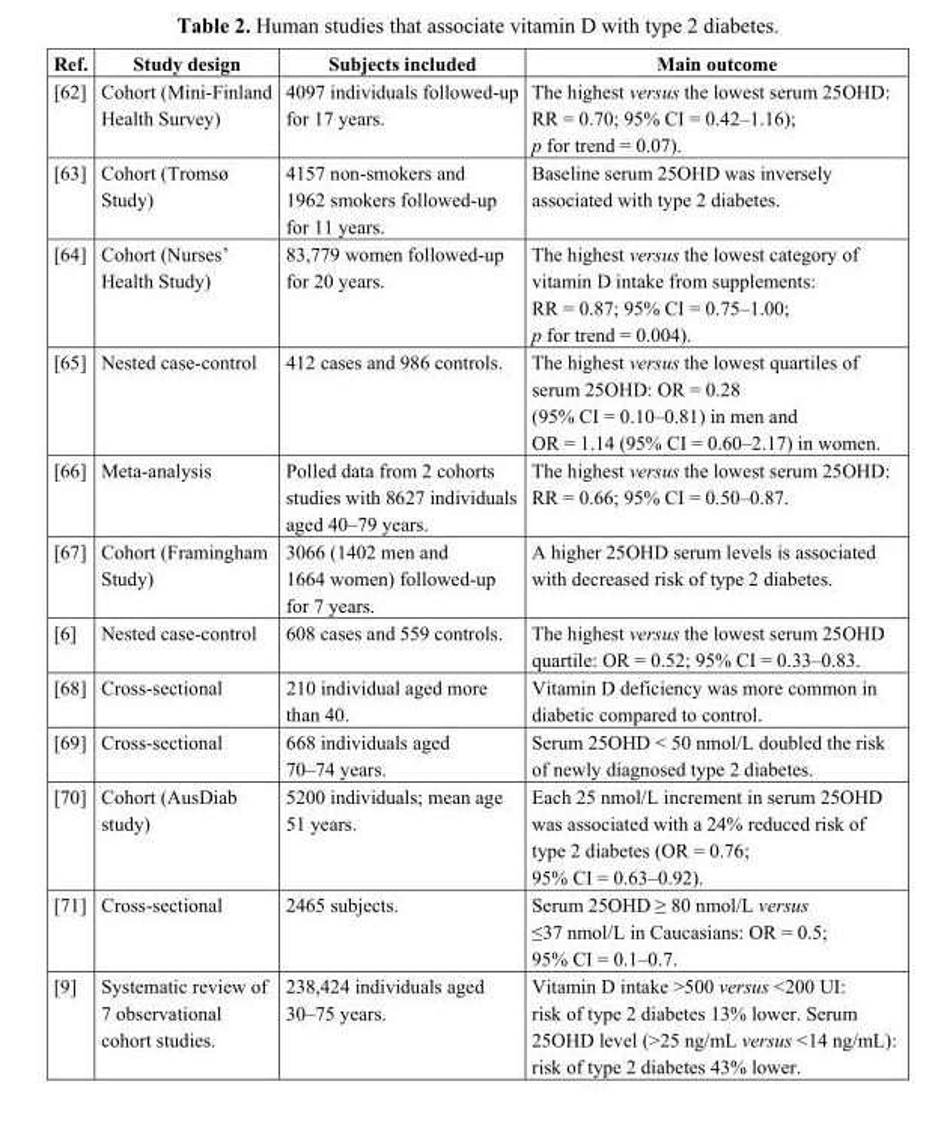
<table><thead><tr><td>Ref.</td><td>Study design</td><td>Subjects included</td><td>Main outcome</td></tr></thead><tbody><tr><td>[62]</td><td>Cohort (Mini-Finland Health Survey)</td><td>4097 individuals followed-up for 17 years.</td><td>The highest versus the lowest serum 25OHD: RR = 0.70; 95% CI = 0.42–1.16); p for trend = 0.07).</td></tr><tr><td>[63]</td><td>Cohort (Tromsø Study)</td><td>4157 non-smokers and 1962 smokers followed-up for 11 years.</td><td>Baseline serum 25OHD was inversely associated with type 2 diabetes.</td></tr><tr><td>[64]</td><td>Cohort (Nurses’ Health Study)</td><td>83,779 women followed-up for 20 years.</td><td>The highest versus the lowest category of vitamin D intake from supplements: RR = 0.87; 95% CI = 0.75–1.00; p for trend = 0.004).</td></tr><tr><td>[65]</td><td>Nested case-control</td><td>412 cases and 986 controls.</td><td>The highest versus the lowest quartiles of serum 25OHD: OR = 0.28 (95% CI = 0.10–0.81) in men and OR = 1.14 (95% CI = 0.60–2.17) in women.</td></tr><tr><td>[66]</td><td>Meta-analysis</td><td>Polled data from 2 cohorts studies with 8627 individuals aged 40–79 years.</td><td>The highest versus the lowest serum 25OHD: RR = 0.66; 95% CI = 0.50–0.87.</td></tr><tr><td>[67]</td><td>Cohort (Framingham Study)</td><td>3066 (1402 men and 1664 women) followed-up for 7 years.</td><td>A higher 25OHD serum levels is associated with decreased risk of type 2 diabetes.</td></tr><tr><td>[6]</td><td>Nested case-control</td><td>608 cases and 559 controls.</td><td>The highest versus the lowest serum 25OHD quartile: OR = 0.52; 95% CI = 0.33–0.83.</td></tr><tr><td>[68]</td><td>Cross-sectional</td><td>210 individual aged more than 40.</td><td>Vitamin D deficiency was more common in diabetic compared to control.</td></tr><tr><td>[69]</td><td>Cross-sectional</td><td>668 individuals aged 70–74 years.</td><td>Serum 25OHD &lt; 50 nmol/L doubled the risk of newly diagnosed type 2 diabetes.</td></tr><tr><td>[70]</td><td>Cohort (AusDiab study)</td><td>5200 individuals; mean age 51 years.</td><td>Each 25 nmol/L increment in serum 25OHD was associated with a 24% reduced risk of type 2 diabetes (OR = 0.76; 95% CI = 0.63–0.92).</td></tr><tr><td>[71]</td><td>Cross-sectional</td><td>2465 subjects.</td><td>Serum 25OHD ≥ 80 nmol/L versus ≤37 nmol/L in Caucasians: OR = 0.5; 95% CI = 0.1–0.7.</td></tr><tr><td>[9]</td><td>Systematic review of 7 observational cohort studies.</td><td>238,424 individuals aged 30–75 years.</td><td>Vitamin D intake &gt;500 versus &lt;200 UI: risk of type 2 diabetes 13% lower. Serum 25OHD level (&gt;25 ng/mL versus &lt;14 ng/mL): risk of type 2 diabetes 43% lower.</td></tr></tbody></table>